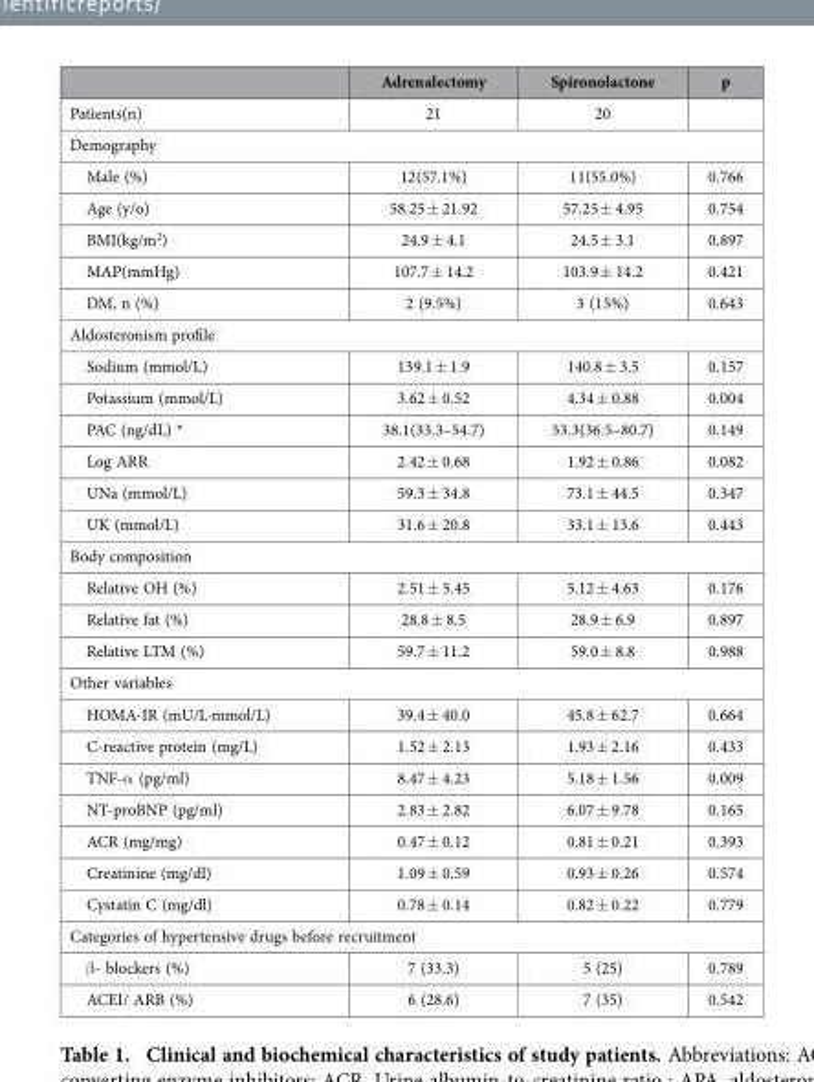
<table><thead><tr><td></td><td>Adrenalectomy</td><td>Spironolactone</td><td>p</td></tr></thead><tbody><tr><td>Patients(n)</td><td>21</td><td>20</td><td></td></tr><tr><td colspan="4">Demography</td></tr><tr><td>Male (%)</td><td>12(57.1%)</td><td>11(55.0%)</td><td>0.766</td></tr><tr><td>Age (y/o)</td><td>58.25 ± 21.92</td><td>57.25 ± 4.95</td><td>0.754</td></tr><tr><td>BMI(kg/m<sup>2</sup>)</td><td>24.9 ± 4.1</td><td>24.5 ± 3.1</td><td>0.897</td></tr><tr><td>MAP(mmHg)</td><td>107.7 ± 14.2</td><td>103.9 ± 14.2</td><td>0.421</td></tr><tr><td>DM, n (%)</td><td>2 (9.5%)</td><td>3 (15%)</td><td>0.643</td></tr><tr><td colspan="4">Aldosteronism profile</td></tr><tr><td>Sodium (mmol/L)</td><td>139.1 ± 1.9</td><td>140.8 ± 3.5</td><td>0.157</td></tr><tr><td>Potassium (mmol/L)</td><td>3.62 ± 0.52</td><td>4.34 ± 0.88</td><td>0.004</td></tr><tr><td>PAC (ng/dL) *</td><td>38.1(33.3–54.7)</td><td>53.3(36.5–80.7)</td><td>0.149</td></tr><tr><td>Log ARR</td><td>2.42 ± 0.68</td><td>1.92 ± 0.86</td><td>0.082</td></tr><tr><td>UNa (mmol/L)</td><td>59.3 ± 34.8</td><td>73.1 ± 44.5</td><td>0.347</td></tr><tr><td>UK (mmol/L)</td><td>31.6 ± 20.8</td><td>33.1 ± 13.6</td><td>0.443</td></tr><tr><td colspan="4">Body composition</td></tr><tr><td>Relative OH (%)</td><td>2.51 ± 5.45</td><td>5.12 ± 4.63</td><td>0.176</td></tr><tr><td>Relative fat (%)</td><td>28.8 ± 8.5</td><td>28.9 ± 6.9</td><td>0.897</td></tr><tr><td>Relative LTM (%)</td><td>59.7 ± 11.2</td><td>59.0 ± 8.8</td><td>0.988</td></tr><tr><td colspan="4">Other variables</td></tr><tr><td>HOMA-IR (mU/L·mmol/L)</td><td>39.4 ± 40.0</td><td>45.8 ± 62.7</td><td>0.664</td></tr><tr><td>C-reactive protein (mg/L)</td><td>1.52 ± 2.13</td><td>1.93 ± 2.16</td><td>0.433</td></tr><tr><td>TNF-α (pg/ml)</td><td>8.47 ± 4.23</td><td>5.18 ± 1.56</td><td>0.009</td></tr><tr><td>NT-proBNP (pg/ml)</td><td>2.83 ± 2.82</td><td>6.07 ± 9.78</td><td>0.165</td></tr><tr><td>ACR (mg/mg)</td><td>0.47 ± 0.12</td><td>0.81 ± 0.21</td><td>0.393</td></tr><tr><td>Creatinine (mg/dl)</td><td>1.09 ± 0.59</td><td>0.93 ± 0.26</td><td>0.574</td></tr><tr><td>Cystatin C (mg/dl)</td><td>0.78 ± 0.14</td><td>0.82 ± 0.22</td><td>0.779</td></tr><tr><td colspan="4">Categories of hypertensive drugs before recruitment</td></tr><tr><td>β - blockers (%)</td><td>7 (33.3)</td><td>5 (25)</td><td>0.789</td></tr><tr><td>ACEI/ ARB (%)</td><td>6 (28.6)</td><td>7 (35)</td><td>0.542</td></tr></tbody></table>